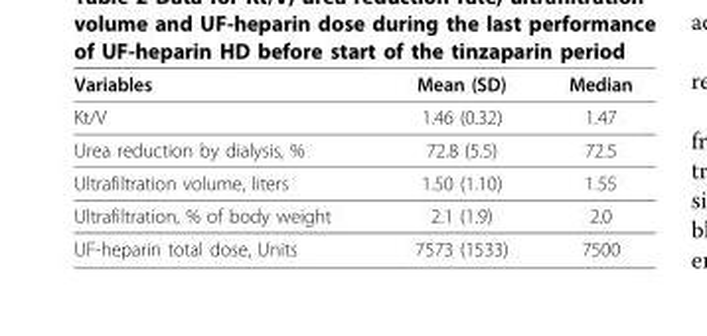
<table><thead><tr><td>Variables</td><td>Mean (SD)</td><td>Median</td></tr></thead><tbody><tr><td>Kt/V</td><td>1.46 (0.32)</td><td>1.47</td></tr><tr><td>Urea reduction by dialysis, %</td><td>72.8 (5.5)</td><td>72.5</td></tr><tr><td>Ultrafiltration volume, liters</td><td>1.50 (1.10)</td><td>1.55</td></tr><tr><td>Ultrafiltration, % of body weight</td><td>2.1 (1.9)</td><td>2.0</td></tr><tr><td>UF-heparin total dose, Units</td><td>7573 (1533)</td><td>7500</td></tr></tbody></table>